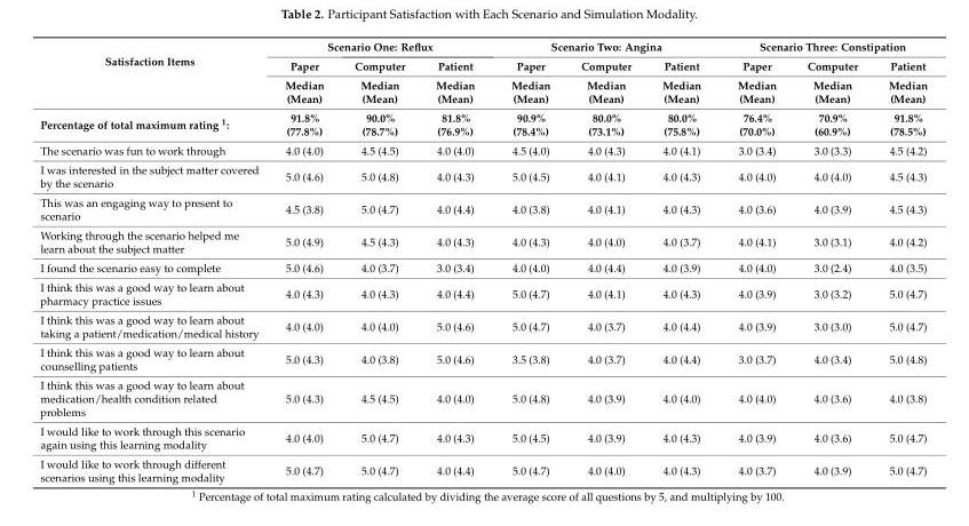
<table><thead><tr><td rowspan="3">Satisfaction Items</td><td colspan="3">Scenario One: Reflux</td><td colspan="3">Scenario Two: Angina</td><td colspan="3">Scenario Three: Constipation</td></tr><tr><td rowspan="2">Paper Median (Mean)</td><td rowspan="2">Computer Median (Mean)</td><td rowspan="2">Patient Median (Mean)</td><td rowspan="2">Paper Median (Mean)</td><td rowspan="2">Computer Median (Mean)</td><td rowspan="2">Patient Median (Mean)</td><td rowspan="2">Paper Median (Mean)</td><td rowspan="2">Computer Median (Mean)</td><td rowspan="2">Patient Median (Mean)</td></tr><tr></tr></thead><tbody><tr><td>Percentage of total maximum rating <sup>1</sup>:</td><td>91.8% (77.8%)</td><td>90.0% (78.7%)</td><td>81.8% (76.9%)</td><td>90.9% (78.4%)</td><td>80.0% (73.1%)</td><td>80.0% (75.8%)</td><td>76.4% (70.0%)</td><td>70.9% (60.9%)</td><td>91.8% (78.5%)</td></tr><tr><td>The scenario was fun to work through</td><td>4.0 (4.0)</td><td>4.5 (4.5)</td><td>4.0 (4.0)</td><td>4.5 (4.0)</td><td>4.0 (4.3)</td><td>4.0 (4.1)</td><td>3.0 (3.4)</td><td>3.0 (3.3)</td><td>4.5 (4.2)</td></tr><tr><td>I was interested in the subject matter covered by the scenario</td><td>5.0 (4.6)</td><td>5.0 (4.8)</td><td>4.0 (4.3)</td><td>5.0 (4.5)</td><td>4.0 (4.1)</td><td>4.0 (4.3)</td><td>4.0 (4.0)</td><td>4.0 (4.0)</td><td>4.5 (4.3)</td></tr><tr><td>This was an engaging way to present to scenario</td><td>4.5 (3.8)</td><td>5.0 (4.7)</td><td>4.0 (4.4)</td><td>4.0 (3.8)</td><td>4.0 (4.1)</td><td>4.0 (4.3)</td><td>4.0 (3.6)</td><td>4.0 (3.9)</td><td>4.5 (4.3)</td></tr><tr><td>Working through the scenario helped me learn about the subject matter</td><td>5.0 (4.9)</td><td>4.5 (4.3)</td><td>4.0 (4.3)</td><td>4.0 (4.3)</td><td>4.0 (4.0)</td><td>4.0 (3.7)</td><td>4.0 (4.1)</td><td>3.0 (3.1)</td><td>4.0 (4.2)</td></tr><tr><td>I found the scenario easy to complete</td><td>5.0 (4.6)</td><td>4.0 (3.7)</td><td>3.0 (3.4)</td><td>4.0 (4.0)</td><td>4.0 (4.4)</td><td>4.0 (3.9)</td><td>4.0 (4.0)</td><td>3.0 (2.4)</td><td>4.0 (3.5)</td></tr><tr><td>I think this was a good way to learn about pharmacy practice issues</td><td>4.0 (4.3)</td><td>4.0 (4.3)</td><td>4.0 (4.4)</td><td>5.0 (4.7)</td><td>4.0 (4.1)</td><td>4.0 (4.3)</td><td>4.0 (3.9)</td><td>3.0 (3.2)</td><td>5.0 (4.7)</td></tr><tr><td>I think this was a good way to learn about taking a patient/medication/medical history</td><td>4.0 (4.0)</td><td>4.0 (4.0)</td><td>5.0 (4.6)</td><td>5.0 (4.7)</td><td>4.0 (3.7)</td><td>4.0 (4.4)</td><td>4.0 (3.9)</td><td>3.0 (3.0)</td><td>5.0 (4.7)</td></tr><tr><td>I think this was a good way to learn about counselling patients</td><td>5.0 (4.3)</td><td>4.0 (3.8)</td><td>5.0 (4.6)</td><td>3.5 (3.8)</td><td>4.0 (3.7)</td><td>4.0 (4.4)</td><td>3.0 (3.7)</td><td>4.0 (3.4)</td><td>5.0 (4.8)</td></tr><tr><td>I think this was a good way to learn about medication/health condition related problems</td><td>5.0 (4.3)</td><td>4.5 (4.5)</td><td>4.0 (4.0)</td><td>5.0 (4.8)</td><td>4.0 (3.9)</td><td>4.0 (4.0)</td><td>4.0 (4.0)</td><td>4.0 (3.6)</td><td>4.0 (3.8)</td></tr><tr><td>I would like to work through this scenario again using this learning modality</td><td>4.0 (4.0)</td><td>5.0 (4.7)</td><td>4.0 (4.3)</td><td>5.0 (4.5)</td><td>4.0 (3.9)</td><td>4.0 (4.3)</td><td>4.0 (3.9)</td><td>4.0 (3.6)</td><td>5.0 (4.7)</td></tr><tr><td>I would like to work through different scenarios using this learning modality</td><td>5.0 (4.7)</td><td>5.0 (4.7)</td><td>4.0 (4.4)</td><td>5.0 (4.7)</td><td>4.0 (4.0)</td><td>4.0 (4.3)</td><td>4.0 (3.7)</td><td>4.0 (3.9)</td><td>5.0 (4.7)</td></tr></tbody></table>